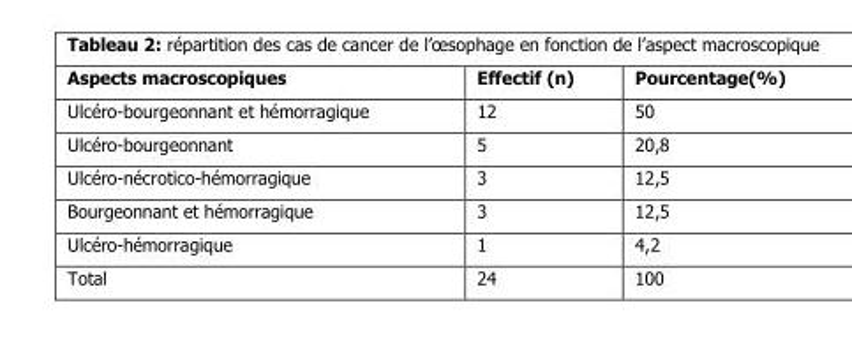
<table><thead><tr><td>Aspects macroscopiques</td><td>Effectif (n)</td><td>Pourcentage(%)</td></tr></thead><tbody><tr><td>Ulcéro-bourgeonnant et hémorragique</td><td>12</td><td>50</td></tr><tr><td>Ulcéro-bourgeonnant</td><td>5</td><td>20,8</td></tr><tr><td>Ulcéro-nécrotico-hémorragique</td><td>3</td><td>12,5</td></tr><tr><td>Bourgeonnant et hémorragique</td><td>3</td><td>12,5</td></tr><tr><td>Ulcéro-hémorragique</td><td>1</td><td>4,2</td></tr><tr><td>Total</td><td>24</td><td>100</td></tr></tbody></table>